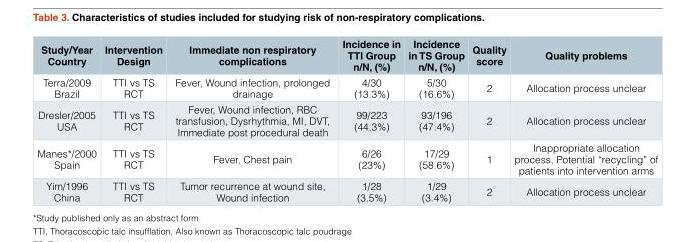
<table><thead><tr><td>Study/Year Country</td><td>Intervention Design</td><td>Immediate non respiratory complications</td><td>Incidence in TTI Group n/N, (%)</td><td>Incidence in TS Group n/N, (%)</td><td>Quality score</td><td>Quality problems</td></tr></thead><tbody><tr><td>Terra/2009 Brazil</td><td>TTI vs TS RCT</td><td>Fever, Wound infection, prolonged drainage</td><td>4/30 (13.3%)</td><td>5/30 (16.6%)</td><td>2</td><td>Allocation process unclear</td></tr><tr><td>Dresler/2005 USA</td><td>TTI vs TS RCT</td><td>Fever, Wound infection, RBC transfusion, Dysrhythmia, MI, DVT, Immediate post procedural death</td><td>99/223 (44.3%)</td><td>93/196 (47.4%)</td><td>2</td><td>Allocation process unclear</td></tr><tr><td>Manes*/2000 Spain</td><td>TTI vs TS RCT</td><td>Fever, Chest pain</td><td>6/26 (23%)</td><td>17/29 (58.6%)</td><td>1</td><td>Inappropriate allocation process, Potential “recycling” of patients into intervention arms</td></tr><tr><td>Yim/1996 China</td><td>TTI vs TS RCT</td><td>Tumor recurrence at wound site, Wound infection</td><td>1/28 (3.5%)</td><td>1/29 (3.4%)</td><td>2</td><td>Allocation process unclear</td></tr></tbody></table>